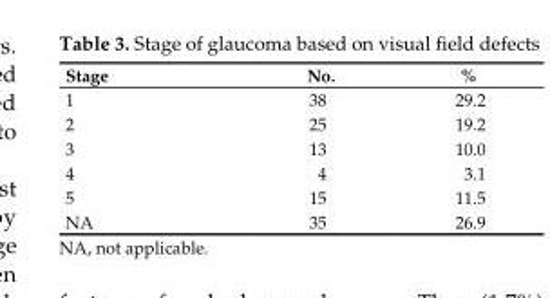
<table><thead><tr><td>Stage</td><td>No.</td><td>%</td></tr></thead><tbody><tr><td>1</td><td>38</td><td>29.2</td></tr><tr><td>2</td><td>25</td><td>19.2</td></tr><tr><td>3</td><td>13</td><td>10.0</td></tr><tr><td>4</td><td>4</td><td>3.1</td></tr><tr><td>5</td><td>15</td><td>11.5</td></tr><tr><td>NA</td><td>35</td><td>26.9</td></tr></tbody></table>